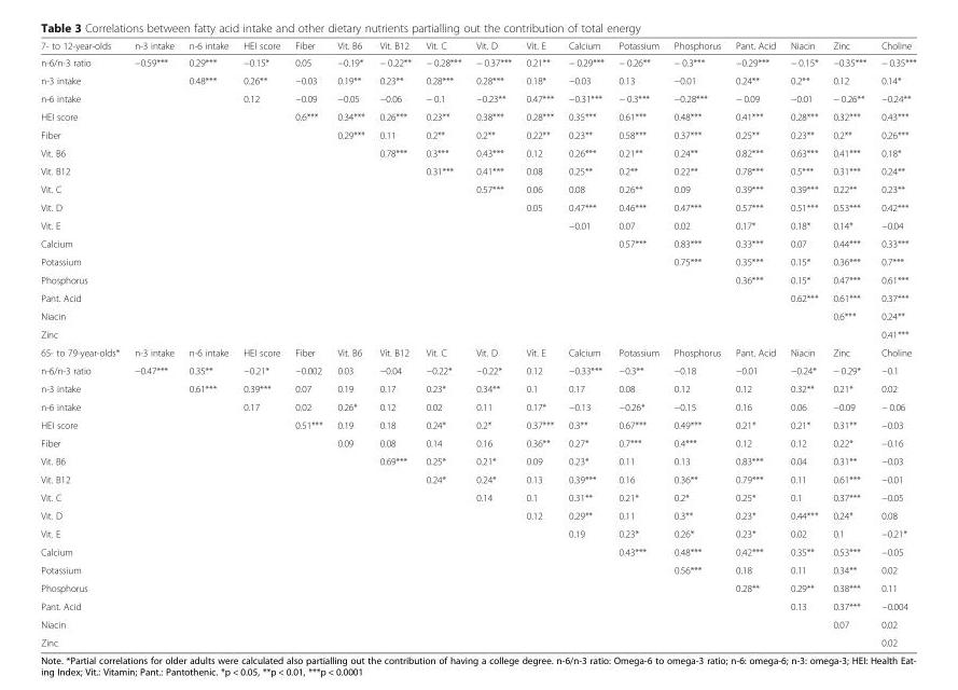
<table><thead><tr><td>7- to 12-year-olds</td><td>n-3 intake</td><td>n-6 intake</td><td>HEI score</td><td>Fiber</td><td>Vit. B6</td><td>Vit. B12</td><td>Vit. C</td><td>Vit. D</td><td>Vit. E</td><td>Calcium</td><td>Potassium</td><td>Phosphorus</td><td>Pant. Acid</td><td>Niacin</td><td>Zinc</td><td>Choline</td></tr></thead><tbody><tr><td>n-6/n-3 ratio</td><td>−0.59***</td><td>0.29***</td><td>−0.15*</td><td>0.05</td><td>−0.19*</td><td>− 0.22**</td><td>− 0.28***</td><td>− 0.37***</td><td>0.21**</td><td>− 0.29***</td><td>− 0.26**</td><td>− 0.3***</td><td>−0.29***</td><td>− 0.15*</td><td>−0.35***</td><td>− 0.35***</td></tr><tr><td>n-3 intake</td><td></td><td>0.48***</td><td>0.26**</td><td>−0.03</td><td>0.19**</td><td>0.23**</td><td>0.28***</td><td>0.28***</td><td>0.18*</td><td>−0.03</td><td>0.13</td><td>−0.01</td><td>0.24**</td><td>0.2**</td><td>0.12</td><td>0.14*</td></tr><tr><td>n-6 intake</td><td></td><td></td><td>0.12</td><td>−0.09</td><td>−0.05</td><td>−0.06</td><td>− 0.1</td><td>−0.23**</td><td>0.47***</td><td>−0.31***</td><td>− 0.3***</td><td>−0.28***</td><td>− 0.09</td><td>−0.01</td><td>− 0.26**</td><td>−0.24**</td></tr><tr><td>HEI score</td><td></td><td></td><td></td><td>0.6***</td><td>0.34***</td><td>0.26***</td><td>0.23**</td><td>0.38***</td><td>0.28***</td><td>0.35***</td><td>0.61***</td><td>0.48***</td><td>0.41***</td><td>0.28***</td><td>0.32***</td><td>0.43***</td></tr><tr><td>Fiber</td><td></td><td></td><td></td><td></td><td>0.29***</td><td>0.11</td><td>0.2**</td><td>0.2**</td><td>0.22**</td><td>0.23**</td><td>0.58***</td><td>0.37***</td><td>0.25**</td><td>0.23**</td><td>0.2**</td><td>0.26***</td></tr><tr><td>Vit. B6</td><td></td><td></td><td></td><td></td><td></td><td>0.78***</td><td>0.3***</td><td>0.43***</td><td>0.12</td><td>0.26***</td><td>0.21**</td><td>0.24**</td><td>0.82***</td><td>0.63***</td><td>0.41***</td><td>0.18*</td></tr><tr><td>Vit. B12</td><td></td><td></td><td></td><td></td><td></td><td></td><td>0.31***</td><td>0.41***</td><td>0.08</td><td>0.25**</td><td>0.2**</td><td>0.22**</td><td>0.78***</td><td>0.5***</td><td>0.31***</td><td>0.24**</td></tr><tr><td>Vit. C</td><td></td><td></td><td></td><td></td><td></td><td></td><td></td><td>0.57***</td><td>0.06</td><td>0.08</td><td>0.26**</td><td>0.09</td><td>0.39***</td><td>0.39***</td><td>0.22**</td><td>0.23**</td></tr><tr><td>Vit. D</td><td></td><td></td><td></td><td></td><td></td><td></td><td></td><td></td><td>0.05</td><td>0.47***</td><td>0.46***</td><td>0.47***</td><td>0.57***</td><td>0.51***</td><td>0.53***</td><td>0.42***</td></tr><tr><td>Vit. E</td><td></td><td></td><td></td><td></td><td></td><td></td><td></td><td></td><td></td><td>−0.01</td><td>0.07</td><td>0.02</td><td>0.17*</td><td>0.18*</td><td>0.14*</td><td>−0.04</td></tr><tr><td>Calcium</td><td></td><td></td><td></td><td></td><td></td><td></td><td></td><td></td><td></td><td></td><td>0.57***</td><td>0.83***</td><td>0.33***</td><td>0.07</td><td>0.44***</td><td>0.33***</td></tr><tr><td>Potassium</td><td></td><td></td><td></td><td></td><td></td><td></td><td></td><td></td><td></td><td></td><td></td><td>0.75***</td><td>0.35***</td><td>0.15*</td><td>0.36***</td><td>0.7***</td></tr><tr><td>Phosphorus</td><td></td><td></td><td></td><td></td><td></td><td></td><td></td><td></td><td></td><td></td><td></td><td></td><td>0.36***</td><td>0.15*</td><td>0.47***</td><td>0.61***</td></tr><tr><td>Pant. Acid</td><td></td><td></td><td></td><td></td><td></td><td></td><td></td><td></td><td></td><td></td><td></td><td></td><td></td><td>0.62***</td><td>0.61***</td><td>0.37***</td></tr><tr><td>Niacin</td><td></td><td></td><td></td><td></td><td></td><td></td><td></td><td></td><td></td><td></td><td></td><td></td><td></td><td></td><td>0.6***</td><td>0.24**</td></tr><tr><td>Zinc</td><td></td><td></td><td></td><td></td><td></td><td></td><td></td><td></td><td></td><td></td><td></td><td></td><td></td><td></td><td></td><td>0.41***</td></tr><tr><td>65- to 79-year-olds*</td><td>n-3 intake</td><td>n-6 intake</td><td>HEI score</td><td>Fiber</td><td>Vit. B6</td><td>Vit. B12</td><td>Vit. C</td><td>Vit. D</td><td>Vit. E</td><td>Calcium</td><td>Potassium</td><td>Phosphorus</td><td>Pant. Acid</td><td>Niacin</td><td>Zinc</td><td>Choline</td></tr><tr><td>n-6/n-3 ratio</td><td>−0.47***</td><td>0.35**</td><td>−0.21*</td><td>−0.002</td><td>0.03</td><td>−0.04</td><td>−0.22*</td><td>−0.22*</td><td>0.12</td><td>−0.33***</td><td>−0.3**</td><td>−0.18</td><td>−0.01</td><td>−0.24*</td><td>− 0.29*</td><td>−0.1</td></tr><tr><td>n-3 intake</td><td></td><td>0.61***</td><td>0.39***</td><td>0.07</td><td>0.19</td><td>0.17</td><td>0.23*</td><td>0.34**</td><td>0.1</td><td>0.17</td><td>0.08</td><td>0.12</td><td>0.12</td><td>0.32**</td><td>0.21*</td><td>0.02</td></tr><tr><td>n-6 intake</td><td></td><td></td><td>0.17</td><td>0.02</td><td>0.26*</td><td>0.12</td><td>0.02</td><td>0.11</td><td>0.17*</td><td>−0.13</td><td>−0.26*</td><td>−0.15</td><td>0.16</td><td>0.06</td><td>−0.09</td><td>− 0.06</td></tr><tr><td>HEI score</td><td></td><td></td><td></td><td>0.51***</td><td>0.19</td><td>0.18</td><td>0.24*</td><td>0.2*</td><td>0.37***</td><td>0.3**</td><td>0.67***</td><td>0.49***</td><td>0.21*</td><td>0.21*</td><td>0.31**</td><td>−0.03</td></tr><tr><td>Fiber</td><td></td><td></td><td></td><td></td><td>0.09</td><td>0.08</td><td>0.14</td><td>0.16</td><td>0.36**</td><td>0.27*</td><td>0.7***</td><td>0.4***</td><td>0.12</td><td>0.12</td><td>0.22*</td><td>−0.16</td></tr><tr><td>Vit. B6</td><td></td><td></td><td></td><td></td><td></td><td>0.69***</td><td>0.25*</td><td>0.21*</td><td>0.09</td><td>0.23*</td><td>0.11</td><td>0.13</td><td>0.83***</td><td>0.04</td><td>0.31**</td><td>−0.03</td></tr><tr><td>Vit. B12</td><td></td><td></td><td></td><td></td><td></td><td></td><td>0.24*</td><td>0.24*</td><td>0.13</td><td>0.39***</td><td>0.16</td><td>0.36**</td><td>0.79***</td><td>0.11</td><td>0.61***</td><td>−0.01</td></tr><tr><td>Vit. C</td><td></td><td></td><td></td><td></td><td></td><td></td><td></td><td>0.14</td><td>0.1</td><td>0.31**</td><td>0.21*</td><td>0.2*</td><td>0.25*</td><td>0.1</td><td>0.37***</td><td>−0.05</td></tr><tr><td>Vit. D</td><td></td><td></td><td></td><td></td><td></td><td></td><td></td><td></td><td>0.12</td><td>0.29**</td><td>0.11</td><td>0.3**</td><td>0.23*</td><td>0.44***</td><td>0.24*</td><td>0.08</td></tr><tr><td>Vit. E</td><td></td><td></td><td></td><td></td><td></td><td></td><td></td><td></td><td></td><td>0.19</td><td>0.23*</td><td>0.26*</td><td>0.23*</td><td>0.02</td><td>0.1</td><td>−0.21*</td></tr><tr><td>Calcium</td><td></td><td></td><td></td><td></td><td></td><td></td><td></td><td></td><td></td><td></td><td>0.43***</td><td>0.48***</td><td>0.42***</td><td>0.35**</td><td>0.53***</td><td>−0.05</td></tr><tr><td>Potassium</td><td></td><td></td><td></td><td></td><td></td><td></td><td></td><td></td><td></td><td></td><td></td><td>0.56***</td><td>0.18</td><td>0.11</td><td>0.34**</td><td>0.02</td></tr><tr><td>Phosphorus</td><td></td><td></td><td></td><td></td><td></td><td></td><td></td><td></td><td></td><td></td><td></td><td></td><td>0.28**</td><td>0.29**</td><td>0.38***</td><td>0.11</td></tr><tr><td>Pant. Acid</td><td></td><td></td><td></td><td></td><td></td><td></td><td></td><td></td><td></td><td></td><td></td><td></td><td></td><td>0.13</td><td>0.37***</td><td>−0.004</td></tr><tr><td>Niacin</td><td></td><td></td><td></td><td></td><td></td><td></td><td></td><td></td><td></td><td></td><td></td><td></td><td></td><td></td><td>0.07</td><td>0.02</td></tr><tr><td>Zinc</td><td></td><td></td><td></td><td></td><td></td><td></td><td></td><td></td><td></td><td></td><td></td><td></td><td></td><td></td><td></td><td>0.02</td></tr></tbody></table>